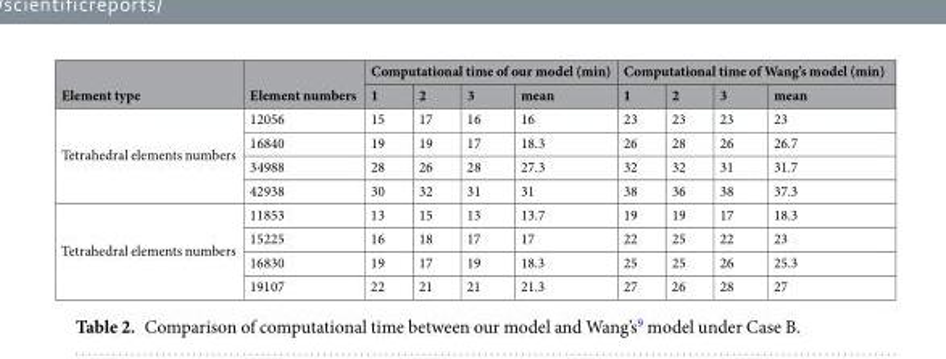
<table><thead><tr><td rowspan="2">Element type</td><td rowspan="2">Element numbers</td><td colspan="4">Computational time of our model (min)</td><td colspan="4">Computational time of Wang’s model (min)</td></tr><tr><td>1</td><td>2</td><td>3</td><td>mean</td><td>1</td><td>2</td><td>3</td><td>mean</td></tr></thead><tbody><tr><td rowspan="4">Tetrahedral elements numbers</td><td>12056</td><td>15</td><td>17</td><td>16</td><td>16</td><td>23</td><td>23</td><td>23</td><td>23</td></tr><tr><td>16840</td><td>19</td><td>19</td><td>17</td><td>18.3</td><td>26</td><td>28</td><td>26</td><td>26.7</td></tr><tr><td>34988</td><td>28</td><td>26</td><td>28</td><td>27.3</td><td>32</td><td>32</td><td>31</td><td>31.7</td></tr><tr><td>42938</td><td>30</td><td>32</td><td>31</td><td>31</td><td>38</td><td>36</td><td>38</td><td>37.3</td></tr><tr><td rowspan="4">Tetrahedral elements numbers</td><td>11853</td><td>13</td><td>15</td><td>13</td><td>13.7</td><td>19</td><td>19</td><td>17</td><td>18.3</td></tr><tr><td>15225</td><td>16</td><td>18</td><td>17</td><td>17</td><td>22</td><td>25</td><td>22</td><td>23</td></tr><tr><td>16830</td><td>19</td><td>17</td><td>19</td><td>18.3</td><td>25</td><td>25</td><td>26</td><td>25.3</td></tr><tr><td>19107</td><td>22</td><td>21</td><td>21</td><td>21.3</td><td>27</td><td>26</td><td>28</td><td>27</td></tr></tbody></table>